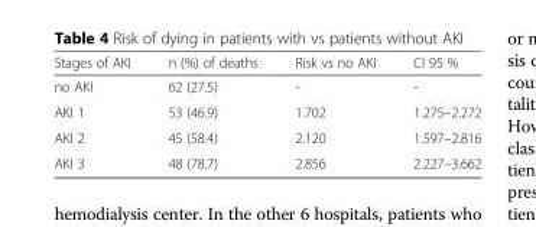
<table><thead><tr><td>Stages of AKI</td><td>n (%) of deaths</td><td>Risk vs no AKI</td><td>CI 95 %</td></tr></thead><tbody><tr><td>no AKI</td><td>62 (27.5)</td><td>-</td><td>-</td></tr><tr><td>AKI 1</td><td>53 (46.9)</td><td>1.702</td><td>1.275–2.272</td></tr><tr><td>AKI 2</td><td>45 (58.4)</td><td>2.120</td><td>1.597–2.816</td></tr><tr><td>AKI 3</td><td>48 (78.7)</td><td>2.856</td><td>2.227–3.662</td></tr></tbody></table>